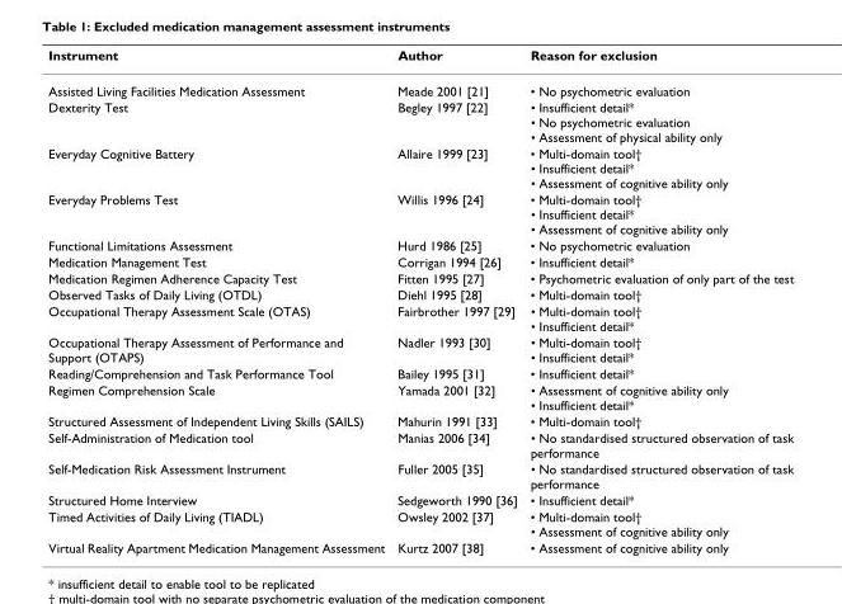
<table><thead><tr><td>Instrument</td><td>Author</td><td>Reason for exclusion</td></tr></thead><tbody><tr><td>Assisted Living Facilities Medication Assessment</td><td>Meade 2001 [21]</td><td>• No psychometric evaluation</td></tr><tr><td>Dexterity Test</td><td>Begley 1997 [22]</td><td>• Insufficient detail* • No psychometric evaluation • Assessment of physical ability only</td></tr><tr><td>Everyday Cognitive Battery</td><td>Allaire 1999 [23]</td><td>• Multi-domain tool† • Insufficient detail* • Assessment of cognitive ability only</td></tr><tr><td>Everyday Problems Test</td><td>Willis 1996 [24]</td><td>• Multi-domain tool† • Insufficient detail* • Assessment of cognitive ability only</td></tr><tr><td>Functional Limitations Assessment</td><td>Hurd 1986 [25]</td><td>• No psychometric evaluation</td></tr><tr><td>Medication Management Test</td><td>Corrigan 1994 [26]</td><td>• Insufficient detail*</td></tr><tr><td>Medication Regimen Adherence Capacity Test</td><td>Fitten 1995 [27]</td><td>• Psychometric evaluation of only part of the test</td></tr><tr><td>Observed Tasks of Daily Living (OTDL)</td><td>Diehl 1995 [28]</td><td>• Multi-domain tool†</td></tr><tr><td>Occupational Therapy Assessment Scale (OTAS)</td><td>Fairbrother 1997 [29]</td><td>• Multi-domain tool† • Insufficient detail*</td></tr><tr><td>Occupational Therapy Assessment of Performance and Support (OTAPS)</td><td>Nadler 1993 [30]</td><td>• Multi-domain tool† • Insufficient detail*</td></tr><tr><td>Reading/Comprehension and Task Performance Tool</td><td>Bailey 1995 [31]</td><td>• Insufficient detail*</td></tr><tr><td>Regimen Comprehension Scale</td><td>Yamada 2001 [32]</td><td>• Assessment of cognitive ability only • Insufficient detail*</td></tr><tr><td>Structured Assessment of Independent Living Skills (SAILS)</td><td>Mahurin 1991 [33]</td><td>• Multi-domain tool†</td></tr><tr><td>Self-Administration of Medication tool</td><td>Manias 2006 [34]</td><td>• No standardised structured observation of task performance</td></tr><tr><td>Self-Medication Risk Assessment Instrument</td><td>Fuller 2005 [35]</td><td>• No standardised structured observation of task performance</td></tr><tr><td>Structured Home Interview</td><td>Sedgeworth 1990 [36]</td><td>• Insufficient detail*</td></tr><tr><td>Timed Activities of Daily Living (TIADL)</td><td>Owsley 2002 [37]</td><td>• Multi-domain tool† • Assessment of cognitive ability only</td></tr><tr><td>Virtual Reality Apartment Medication Management Assessment</td><td>Kurtz 2007 [38]</td><td>• Assessment of cognitive ability only</td></tr></tbody></table>